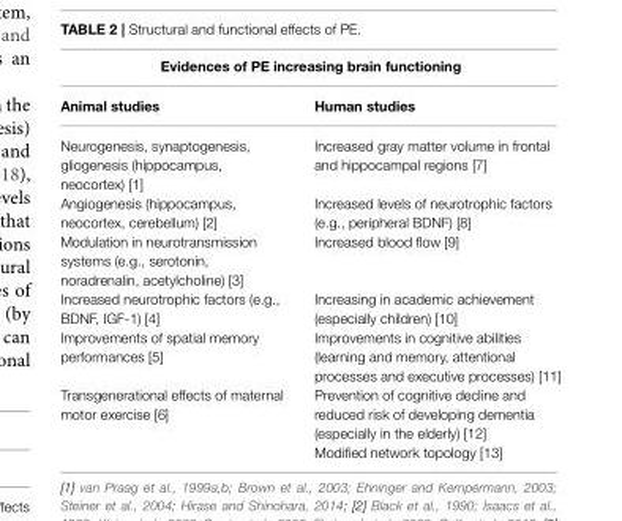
<table><thead><tr><td colspan="2">Evidences of PE increasing brain functioning</td></tr><tr><td>Animal studies</td><td>Human studies</td></tr></thead><tbody><tr><td>Neurogenesis, synaptogenesis, gliogenesis (hippocampus, neocortex) [1] Angiogenesis (hippocampus, neocortex, cerebellum) [2] Modulation in neurotransmission systems (e.g., serotonin, noradrenalin, acetylcholine) [3] Increased neurotrophic factors (e.g., BDNF, IGF-1) [4] Improvements of spatial memory performances [5] Transgenerational effects of maternal motor exercise [6]</td><td>Increased gray matter volume in frontal and hippocampal regions [7] Increased levels of neurotrophic factors (e.g., peripheral BDNF) [8] Increased blood flow [9] Increasing in academic achievement (especially children) [10] Improvements in cognitive abilities (learning and memory, attentional processes and executive processes) [11] Prevention of cognitive decline and reduced risk of developing dementia (especially in the elderly) [12] Modified network topology [13]</td></tr></tbody></table>